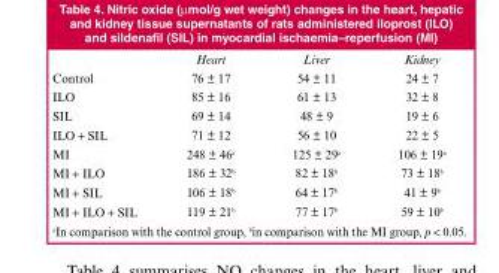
<table><thead><tr><td></td><td>Heart</td><td>Liver</td><td>Kidney</td></tr></thead><tbody><tr><td>Control</td><td>76 ± 17</td><td>54 ± 11</td><td>24 ± 7</td></tr><tr><td>ILO</td><td>85 ± 16</td><td>61 ± 13</td><td>32 ± 8</td></tr><tr><td>SIL</td><td>69 ± 14</td><td>48 ± 9</td><td>19 ± 6</td></tr><tr><td>ILO + SIL</td><td>71 ± 12</td><td>56 ± 10</td><td>22 ± 5</td></tr><tr><td>MI</td><td>248 ± 46<sup>a</sup></td><td>125 ± 29<sup>a</sup></td><td>106 ± 19<sup>a</sup></td></tr><tr><td>MI + ILO</td><td>186 ± 32<sup>b</sup></td><td>82 ± 18<sup>b</sup></td><td>73 ± 18<sup>b</sup></td></tr><tr><td>MI + SIL</td><td>106 ± 18<sup>b</sup></td><td>64 ± 17<sup>b</sup></td><td>41 ± 9<sup>b</sup></td></tr><tr><td>MI + ILO + SIL</td><td>119 ± 21<sup>b</sup></td><td>77 ± 17<sup>b</sup></td><td>59 ± 10<sup>b</sup></td></tr></tbody></table>